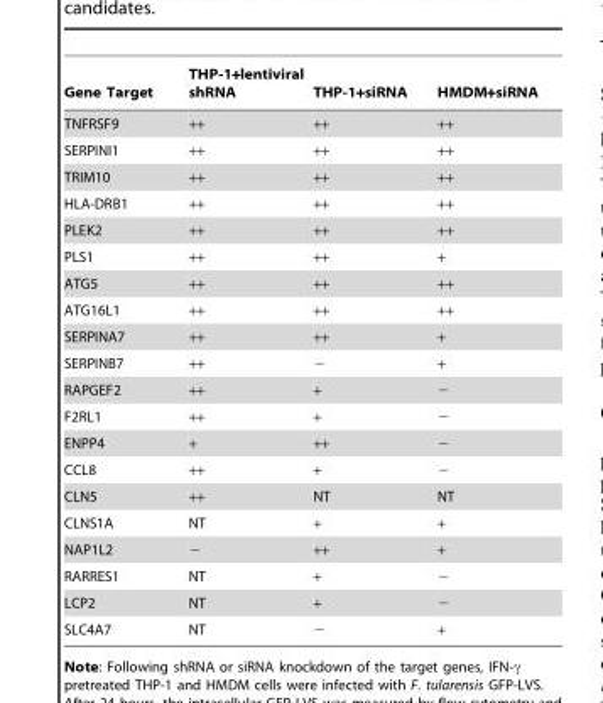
<table><thead><tr><td>Gene Target</td><td>THP-1+lentiviral shRNA</td><td>THP-1+siRNA</td><td>HMDM+siRNA</td></tr></thead><tbody><tr><td>TNFRSF9</td><td>++</td><td>++</td><td>++</td></tr><tr><td>SERPINI1</td><td>++</td><td>++</td><td>++</td></tr><tr><td>TRIM10</td><td>++</td><td>++</td><td>++</td></tr><tr><td>HLA-DRB1</td><td>++</td><td>++</td><td>++</td></tr><tr><td>PLEK2</td><td>++</td><td>++</td><td>++</td></tr><tr><td>PLS1</td><td>++</td><td>++</td><td>+</td></tr><tr><td>ATG5</td><td>++</td><td>++</td><td>++</td></tr><tr><td>ATG16L1</td><td>++</td><td>++</td><td>++</td></tr><tr><td>SERPINA7</td><td>++</td><td>++</td><td>+</td></tr><tr><td>SERPINB7</td><td>++</td><td>−</td><td>+</td></tr><tr><td>RAPGEF2</td><td>++</td><td>+</td><td>−</td></tr><tr><td>F2RL1</td><td>++</td><td>+</td><td>−</td></tr><tr><td>ENPP4</td><td>+</td><td>++</td><td>−</td></tr><tr><td>CCL8</td><td>++</td><td>+</td><td>−</td></tr><tr><td>CLN5</td><td>++</td><td>NT</td><td>NT</td></tr><tr><td>CLNS1A</td><td>NT</td><td>+</td><td>+</td></tr><tr><td>NAP1L2</td><td>−</td><td>++</td><td>+</td></tr><tr><td>RARRES1</td><td>NT</td><td>+</td><td>−</td></tr><tr><td>LCP2</td><td>NT</td><td>+</td><td>−</td></tr><tr><td>SLC4A7</td><td>NT</td><td>−</td><td>+</td></tr></tbody></table>